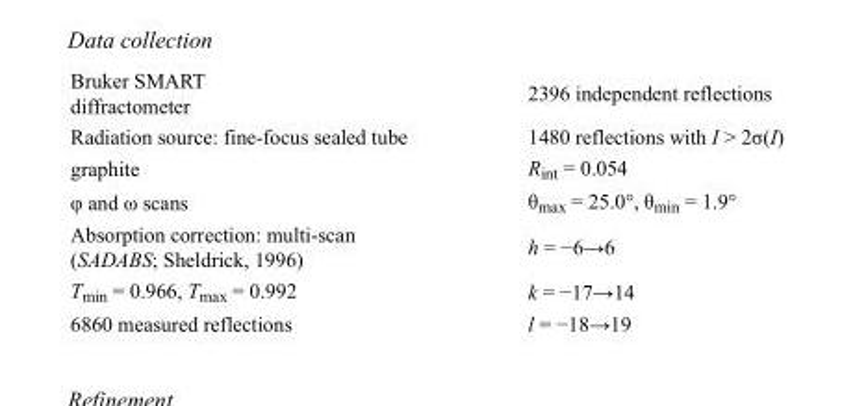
<table><tbody><tr><td>Bruker SMART diffractometer</td><td>2396 independent reflections</td></tr><tr><td>Radiation source: fine-focus sealed tube</td><td>1480 reflections with I &gt; 2σ(I)</td></tr><tr><td>graphite</td><td>R<sub>int</sub> = 0.054</td></tr><tr><td>φ and ω scans</td><td>θ<sub>max</sub> = 25.0°, θ<sub>min</sub> = 1.9°</td></tr><tr><td>Absorption correction: multi-scan (SADABS; Sheldrick, 1996)</td><td>h = −6→6</td></tr><tr><td>T<sub>min</sub> = 0.966, T<sub>max</sub> = 0.992</td><td>k = −17→14</td></tr><tr><td>6860 measured reflections</td><td>l = −18→19</td></tr></tbody></table>